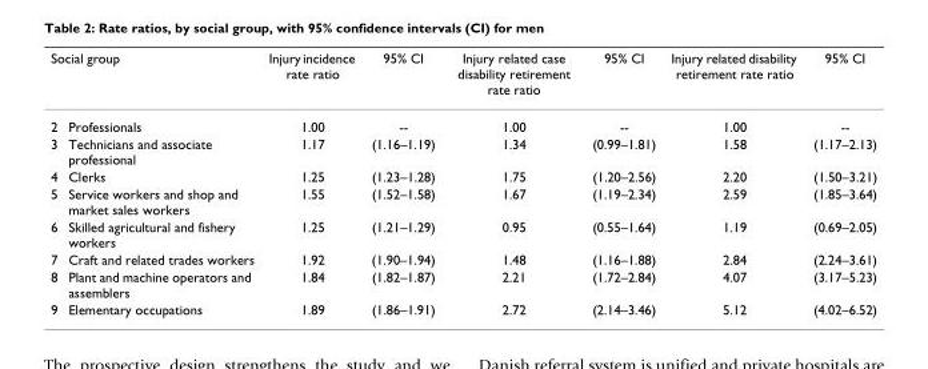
<table><thead><tr><td colspan="2">Social group</td><td rowspan="2">Injury incidence rate ratio 1.00</td><td rowspan="2">95% CI --</td><td rowspan="2">Injury related case disability retirement rate ratio 1.00</td><td rowspan="2">95% CI --</td><td rowspan="2">Injury related disability retirement rate ratio 1.00</td><td rowspan="2">95% CI --</td></tr><tr><td>2</td><td>Professionals</td></tr></thead><tbody><tr><td>3</td><td>Technicians and associate professional</td><td>1.17</td><td>(1.16–1.19)</td><td>1.34</td><td>(0.99–1.81)</td><td>1.58</td><td>(1.17–2.13)</td></tr><tr><td>4</td><td>Clerks</td><td>1.25</td><td>(1.23–1.28)</td><td>1.75</td><td>(1.20–2.56)</td><td>2.20</td><td>(1.50–3.21)</td></tr><tr><td>5</td><td>Service workers and shop and market sales workers</td><td>1.55</td><td>(1.52–1.58)</td><td>1.67</td><td>(1.19–2.34)</td><td>2.59</td><td>(1.85–3.64)</td></tr><tr><td>6</td><td>Skilled agricultural and fishery workers</td><td>1.25</td><td>(1.21–1.29)</td><td>0.95</td><td>(0.55–1.64)</td><td>1.19</td><td>(0.69–2.05)</td></tr><tr><td>7</td><td>Craft and related trades workers</td><td>1.92</td><td>(1.90–1.94)</td><td>1.48</td><td>(1.16–1.88)</td><td>2.84</td><td>(2.24–3.61)</td></tr><tr><td>8</td><td>Plant and machine operators and assemblers</td><td>1.84</td><td>(1.82–1.87)</td><td>2.21</td><td>(1.72–2.84)</td><td>4.07</td><td>(3.17–5.23)</td></tr><tr><td>9</td><td>Elementary occupations</td><td>1.89</td><td>(1.86–1.91)</td><td>2.72</td><td>(2.14–3.46)</td><td>5.12</td><td>(4.02–6.52)</td></tr></tbody></table>